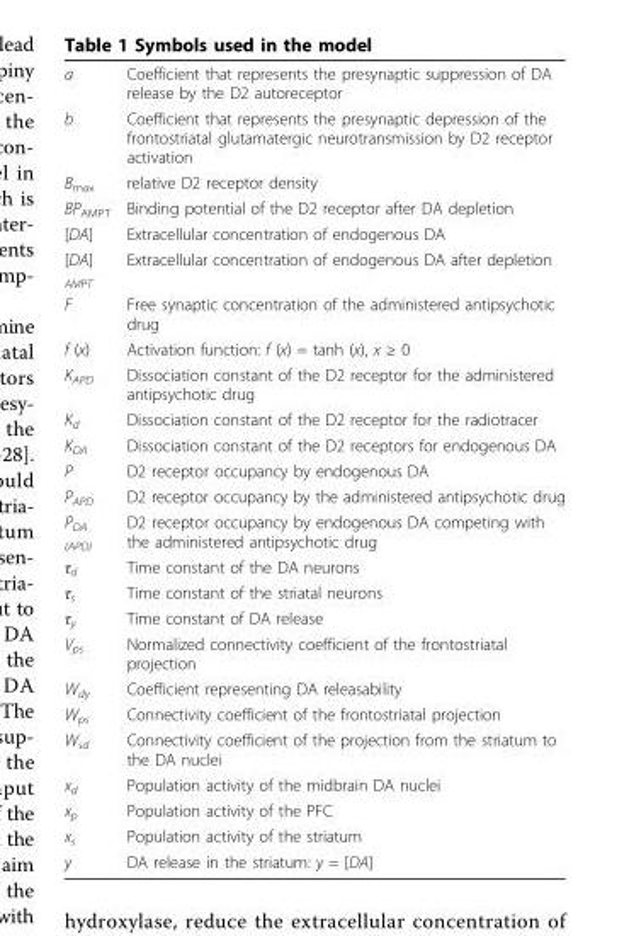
<table><tbody><tr><td>a</td><td>Coefficient that represents the presynaptic suppression of DA release by the D2 autoreceptor</td></tr><tr><td>b</td><td>Coefficient that represents the presynaptic depression of the frontostriatal glutamatergic neurotransmission by D2 receptor activation</td></tr><tr><td>B<sub>max</sub></td><td>relative D2 receptor density</td></tr><tr><td>BP<sub>AMPT</sub></td><td>Binding potential of the D2 receptor after DA depletion</td></tr><tr><td>[DA]</td><td>Extracellular concentration of endogenous DA</td></tr><tr><td>[DA] <sub>AMPT</sub></td><td>Extracellular concentration of endogenous DA after depletion</td></tr><tr><td>F</td><td>Free synaptic concentration of the administered antipsychotic drug</td></tr><tr><td>f (x)</td><td>Activation function: f (x) = tanh (x), x ≥ 0</td></tr><tr><td>K<sub>APD</sub></td><td>Dissociation constant of the D2 receptor for the administered antipsychotic drug</td></tr><tr><td>K<sub>d</sub></td><td>Dissociation constant of the D2 receptor for the radiotracer</td></tr><tr><td>K<sub>DA</sub></td><td>Dissociation constant of the D2 receptors for endogenous DA</td></tr><tr><td>P</td><td>D2 receptor occupancy by endogenous DA</td></tr><tr><td>P<sub>APD</sub></td><td>D2 receptor occupancy by the administered antipsychotic drug</td></tr><tr><td>P<sub>DA (APD)</sub></td><td>D2 receptor occupancy by endogenous DA competing with the administered antipsychotic drug</td></tr><tr><td>τ<sub>d</sub></td><td>Time constant of the DA neurons</td></tr><tr><td>τ<sub>s</sub></td><td>Time constant of the striatal neurons</td></tr><tr><td>τ<sub>y</sub></td><td>Time constant of DA release</td></tr><tr><td>V<sub>ps</sub></td><td>Normalized connectivity coefficient of the frontostriatal projection</td></tr><tr><td>W<sub>dy</sub></td><td>Coefficient representing DA releasability</td></tr><tr><td>W<sub>ps</sub></td><td>Connectivity coefficient of the frontostriatal projection</td></tr><tr><td>W<sub>sd</sub></td><td>Connectivity coefficient of the projection from the striatum to the DA nuclei</td></tr><tr><td>x<sub>d</sub></td><td>Population activity of the midbrain DA nuclei</td></tr><tr><td>x<sub>p</sub></td><td>Population activity of the PFC</td></tr><tr><td>x<sub>s</sub></td><td>Population activity of the striatum</td></tr><tr><td>y</td><td>DA release in the striatum: y = [DA]</td></tr></tbody></table>